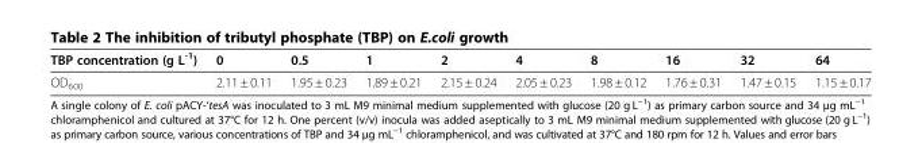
<table><thead><tr><td>TBP concentration (g L<sup>-1</sup>)</td><td>0</td><td>0.5</td><td>1</td><td>2</td><td>4</td><td>8</td><td>16</td><td>32</td><td>64</td></tr></thead><tbody><tr><td>OD<sub>600</sub></td><td>2.11 ± 0.11</td><td>1.95 ± 0.23</td><td>1.89 ± 0.21</td><td>2.15 ± 0.24</td><td>2.05 ± 0.23</td><td>1.98 ± 0.12</td><td>1.76 ± 0.31</td><td>1.47 ± 0.15</td><td>1.15 ± 0.17</td></tr></tbody></table>